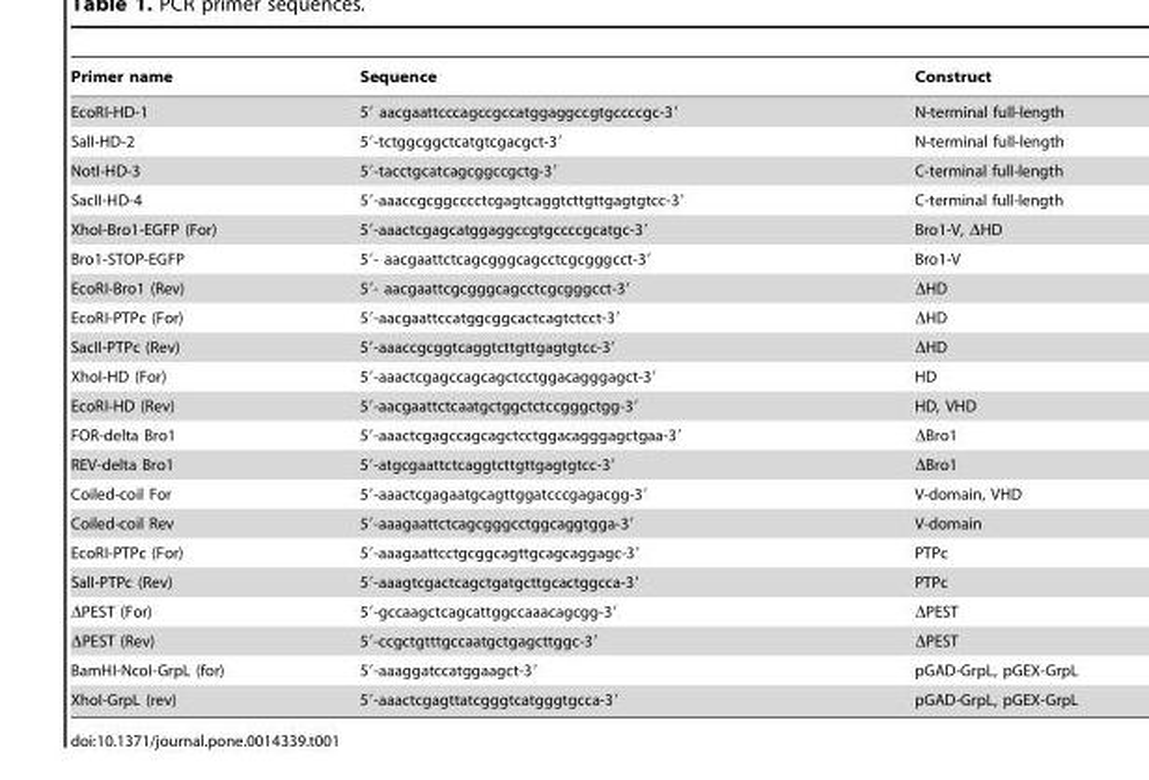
<table><thead><tr><td>Primer name</td><td>Sequence</td><td>Construct</td></tr></thead><tbody><tr><td>EcoRI-HD-1</td><td>5′ aacgaattcccagccgccatggaggccgtgccccgc-3′</td><td>N-terminal full-length</td></tr><tr><td>SalI-HD-2</td><td>5′-tctggcggctcatgtcgacgct-3′</td><td>N-terminal full-length</td></tr><tr><td>NotI-HD-3</td><td>5′-tacctgcatcagcggccgctg-3′</td><td>C-terminal full-length</td></tr><tr><td>SacII-HD-4</td><td>5′-aaaccgcggcccctcgagtcaggtcttgttgagtgtcc-3′</td><td>C-terminal full-length</td></tr><tr><td>XhoI-Bro1-EGFP (For)</td><td>5′-aaactcgagcatggaggccgtgccccgcatgc-3′</td><td>Bro1-V, ΔHD</td></tr><tr><td>Bro1-STOP-EGFP</td><td>5′- aacgaattctcagcgggcagcctcgcgggcct-3′</td><td>Bro1-V</td></tr><tr><td>EcoRI-Bro1 (Rev)</td><td>5′- aacgaattcgcgggcagcctcgcgggcct-3′</td><td>ΔHD</td></tr><tr><td>EcoRI-PTPc (For)</td><td>5′-aacgaattccatggcggcactcagtctcct-3′</td><td>ΔHD</td></tr><tr><td>SacII-PTPc (Rev)</td><td>5′-aaaccgcggtcaggtcttgttgagtgtcc-3′</td><td>ΔHD</td></tr><tr><td>XhoI-HD (For)</td><td>5′-aaactcgagccagcagctcctggacagggagct-3′</td><td>HD</td></tr><tr><td>EcoRI-HD (Rev)</td><td>5′-aacgaattctcaatgctggctctccgggctgg-3′</td><td>HD, VHD</td></tr><tr><td>FOR-delta Bro1</td><td>5′-aaactcgagccagcagctcctggacagggagctgaa-3′</td><td>ΔBro1</td></tr><tr><td>REV-delta Bro1</td><td>5′-atgcgaattctcaggtcttgttgagtgtcc-3′</td><td>ΔBro1</td></tr><tr><td>Coiled-coil For</td><td>5′-aaactcgagaatgcagttggatcccgagacgg-3′</td><td>V-domain, VHD</td></tr><tr><td>Coiled-coil Rev</td><td>5′-aaagaattctcagcgggcctggcaggtgga-3′</td><td>V-domain</td></tr><tr><td>EcoRI-PTPc (For)</td><td>5′-aaagaattcctgcggcagttgcagcaggagc-3′</td><td>PTPc</td></tr><tr><td>SalI-PTPc (Rev)</td><td>5′-aaagtcgactcagctgatgcttgcactggcca-3′</td><td>PTPc</td></tr><tr><td>ΔPEST (For)</td><td>5′-gccaagctcagcattggccaaacagcgg-3′</td><td>ΔPEST</td></tr><tr><td>ΔPEST (Rev)</td><td>5′-ccgctgtttgccaatgctgagcttggc-3′</td><td>ΔPEST</td></tr><tr><td>BamHI-NcoI-GrpL (for)</td><td>5′-aaaggatccatggaagct-3′</td><td>pGAD-GrpL, pGEX-GrpL</td></tr><tr><td>XhoI-GrpL (rev)</td><td>5′-aaactcgagttatcgggtcatgggtgcca-3′</td><td>pGAD-GrpL, pGEX-GrpL</td></tr></tbody></table>